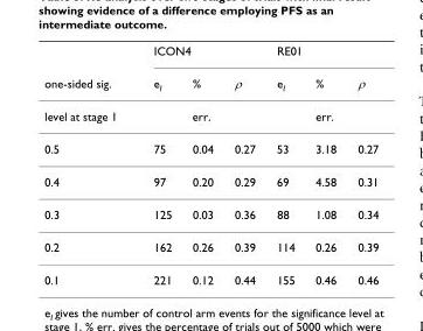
<table><thead><tr><td rowspan="2">one-sided sig.</td><td colspan="3">ICON4</td><td colspan="3">RE01</td></tr><tr><td>e<sub>I</sub></td><td>%</td><td>ρ</td><td>e<sub>I</sub></td><td>%</td><td>ρ</td></tr></thead><tbody><tr><td>level at stage 1</td><td></td><td>err.</td><td></td><td></td><td>err.</td><td></td></tr><tr><td>0.5</td><td>75</td><td>0.04</td><td>0.27</td><td>53</td><td>3.18</td><td>0.27</td></tr><tr><td>0.4</td><td>97</td><td>0.20</td><td>0.29</td><td>69</td><td>4.58</td><td>0.31</td></tr><tr><td>0.3</td><td>125</td><td>0.03</td><td>0.36</td><td>88</td><td>1.08</td><td>0.34</td></tr><tr><td>0.2</td><td>162</td><td>0.26</td><td>0.39</td><td>114</td><td>0.26</td><td>0.39</td></tr><tr><td>0.1</td><td>221</td><td>0.12</td><td>0.44</td><td>155</td><td>0.46</td><td>0.46</td></tr></tbody></table>